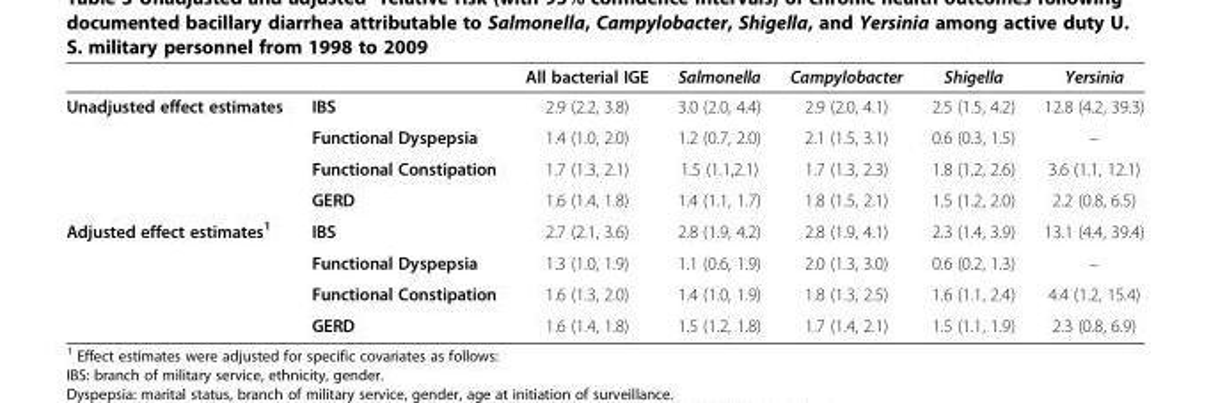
<table><thead><tr><td></td><td></td><td>All bacterial IGE</td><td>Salmonella</td><td>Campylobacter</td><td>Shigella</td><td>Yersinia</td></tr></thead><tbody><tr><td rowspan="4">Unadjusted effect estimates</td><td>IBS</td><td>2.9 (2.2, 3.8)</td><td>3.0 (2.0, 4.4)</td><td>2.9 (2.0, 4.1)</td><td>2.5 (1.5, 4.2)</td><td>12.8 (4.2, 39.3)</td></tr><tr><td>Functional Dyspepsia</td><td>1.4 (1.0, 2.0)</td><td>1.2 (0.7, 2.0)</td><td>2.1 (1.5, 3.1)</td><td>0.6 (0.3, 1.5)</td><td>–</td></tr><tr><td>Functional Constipation</td><td>1.7 (1.3, 2.1)</td><td>1.5 (1.1,2.1)</td><td>1.7 (1.3, 2.3)</td><td>1.8 (1.2, 2.6)</td><td>3.6 (1.1, 12.1)</td></tr><tr><td>GERD</td><td>1.6 (1.4, 1.8)</td><td>1.4 (1.1, 1.7)</td><td>1.8 (1.5, 2.1)</td><td>1.5 (1.2, 2.0)</td><td>2.2 (0.8, 6.5)</td></tr><tr><td rowspan="4">Adjusted effect estimates<sup>1</sup></td><td>IBS</td><td>2.7 (2.1, 3.6)</td><td>2.8 (1.9, 4.2)</td><td>2.8 (1.9, 4.1)</td><td>2.3 (1.4, 3.9)</td><td>13.1 (4.4, 39.4)</td></tr><tr><td>Functional Dyspepsia</td><td>1.3 (1.0, 1.9)</td><td>1.1 (0.6, 1.9)</td><td>2.0 (1.3, 3.0)</td><td>0.6 (0.2, 1.3)</td><td>–</td></tr><tr><td>Functional Constipation</td><td>1.6 (1.3, 2.0)</td><td>1.4 (1.0, 1.9)</td><td>1.8 (1.3, 2.5)</td><td>1.6 (1.1, 2.4)</td><td>4.4 (1.2, 15.4)</td></tr><tr><td>GERD</td><td>1.6 (1.4, 1.8)</td><td>1.5 (1.2, 1.8)</td><td>1.7 (1.4, 2.1)</td><td>1.5 (1.1, 1.9)</td><td>2.3 (0.8, 6.9)</td></tr></tbody></table>